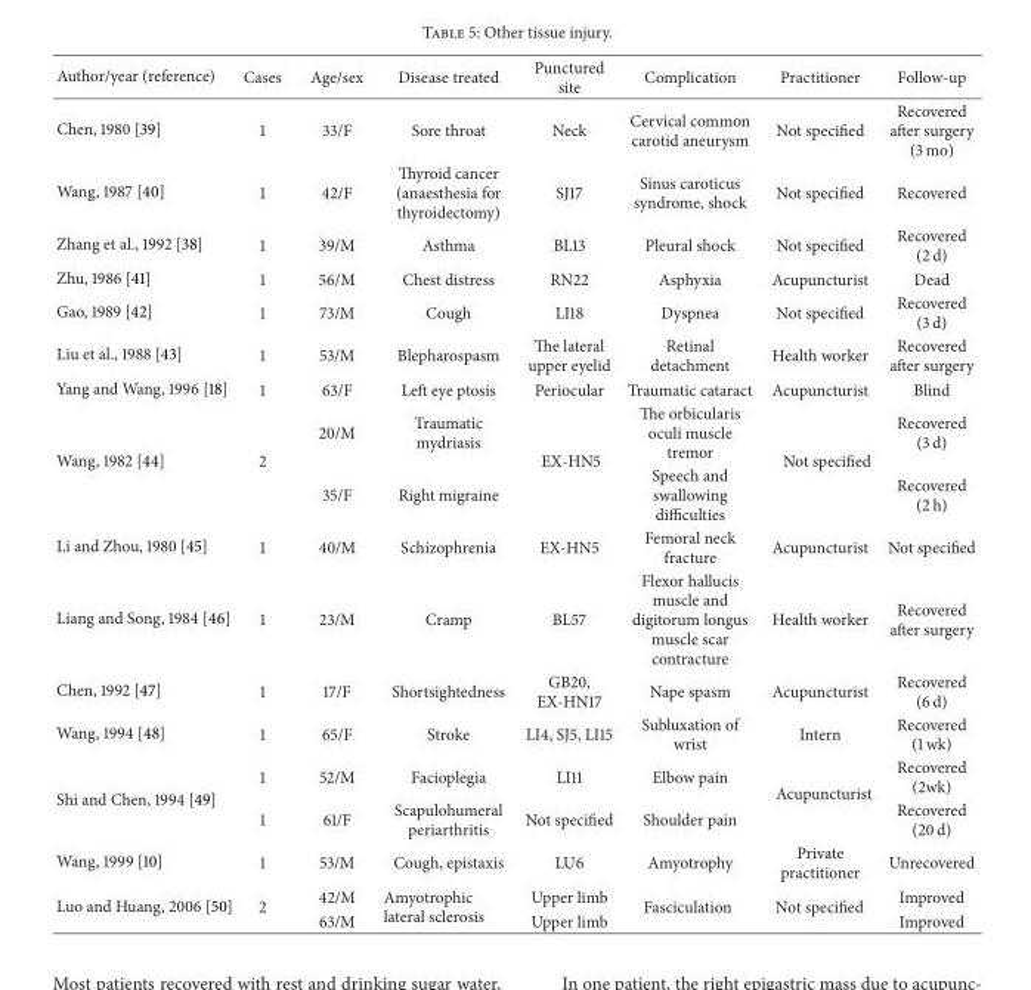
<table><thead><tr><td>Author/year (reference)</td><td>Cases</td><td>Age/sex</td><td>Disease treated</td><td>Punctured site</td><td>Complication</td><td>Practitioner</td><td>Follow-up</td></tr></thead><tbody><tr><td>Chen, 1980 [39]</td><td>1</td><td>33/F</td><td>Sore throat</td><td>Neck</td><td>Cervical common carotid aneurysm</td><td>Not specified</td><td>Recovered after surgery (3 mo)</td></tr><tr><td>Wang, 1987 [40]</td><td>1</td><td>42/F</td><td>Thyroid cancer (anaesthesia for thyroidectomy)</td><td>SJ17</td><td>Sinus caroticus syndrome, shock</td><td>Not specified</td><td>Recovered</td></tr><tr><td>Zhang et al., 1992 [38]</td><td>1</td><td>39/M</td><td>Asthma</td><td>BL13</td><td>Pleural shock</td><td>Not specified</td><td>Recovered (2 d)</td></tr><tr><td>Zhu, 1986 [41]</td><td>1</td><td>56/M</td><td>Chest distress</td><td>RN22</td><td>Asphyxia</td><td>Acupuncturist</td><td>Dead</td></tr><tr><td>Gao, 1989 [42]</td><td>1</td><td>73/M</td><td>Cough</td><td>LI18</td><td>Dyspnea</td><td>Not specified</td><td>Recovered (3 d)</td></tr><tr><td>Liu et al., 1988 [43]</td><td>1</td><td>53/M</td><td>Blepharospasm</td><td>The lateral upper eyelid</td><td>Retinal detachment</td><td>Health worker</td><td>Recovered after surgery</td></tr><tr><td>Yang and Wang, 1996 [18]</td><td>1</td><td>63/F</td><td>Left eye ptosis</td><td>Periocular</td><td>Traumatic cataract</td><td>Acupuncturist</td><td>Blind</td></tr><tr><td rowspan="2">Wang, 1982 [44]</td><td rowspan="2">2</td><td>20/M</td><td>Traumatic mydriasis</td><td rowspan="2">EX-HN5</td><td>The orbicularis oculi muscle tremor</td><td rowspan="2">Not specified</td><td>Recovered (3 d)</td></tr><tr><td>35/F</td><td>Right migraine</td><td>Speech and swallowing difficulties</td><td>Recovered (2 h)</td></tr><tr><td>Li and Zhou, 1980 [45]</td><td>1</td><td>40/M</td><td>Schizophrenia</td><td>EX-HN5</td><td>Femoral neck fracture</td><td>Acupuncturist</td><td>Not specified</td></tr><tr><td>Liang and Song, 1984 [46]</td><td>1</td><td>23/M</td><td>Cramp</td><td>BL57</td><td>Flexor hallucis muscle and digitorum longus muscle scar contracture</td><td>Health worker</td><td>Recovered after surgery</td></tr><tr><td>Chen, 1992 [47]</td><td>1</td><td>17/F</td><td>Shortsightedness</td><td>GB20, EX-HN17</td><td>Nape spasm</td><td>Acupuncturist</td><td>Recovered (6 d)</td></tr><tr><td>Wang, 1994 [48]</td><td>1</td><td>65/F</td><td>Stroke</td><td>LI4, SJ5, LI15</td><td>Subluxation of wrist</td><td>Intern</td><td>Recovered (1 wk)</td></tr><tr><td rowspan="2">Shi and Chen, 1994 [49]</td><td>1</td><td>52/M</td><td>Facioplegia</td><td>LI11</td><td>Elbow pain</td><td rowspan="2">Acupuncturist</td><td>Recovered (2wk)</td></tr><tr><td>1</td><td>61/F</td><td>Scapulohumeral periarthritis</td><td>Not specified</td><td>Shoulder pain</td><td>Recovered (20 d)</td></tr><tr><td>Wang, 1999 [10]</td><td>1</td><td>53/M</td><td>Cough, epistaxis</td><td>LU6</td><td>Amyotrophy</td><td>Private practitioner</td><td>Unrecovered</td></tr><tr><td rowspan="2">Luo and Huang, 2006 [50]</td><td rowspan="2">2</td><td>42/M</td><td rowspan="2">Amyotrophic lateral sclerosis</td><td>Upper limb</td><td rowspan="2">Fasciculation</td><td rowspan="2">Not specified</td><td>Improved</td></tr><tr><td>63/M</td><td>Upper limb</td><td>Improved</td></tr></tbody></table>